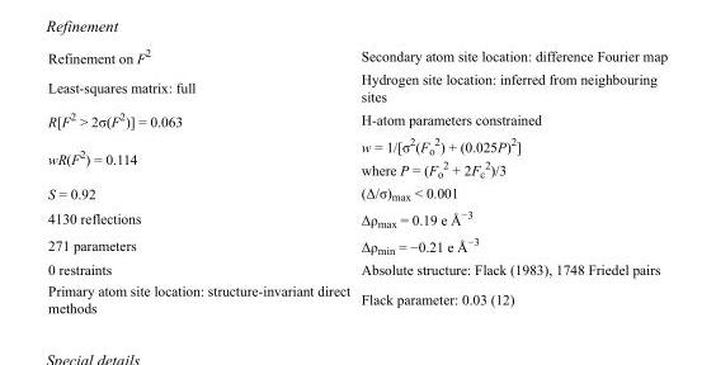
<table><tbody><tr><td>Refinement on F<sup>2</sup></td><td>Secondary atom site location: difference Fourier map</td></tr><tr><td>Least-squares matrix: full</td><td>Hydrogen site location: inferred from neighbouring sites</td></tr><tr><td>R[F<sup>2</sup> &gt; 2σ(F<sup>2</sup>)] = 0.063</td><td>H-atom parameters constrained</td></tr><tr><td>wR(F<sup>2</sup>) = 0.114</td><td>w = 1/[σ<sup>2</sup>(F<sub>o</sub> <sup>2</sup>) + (0.025P)<sup>2</sup>] where P = (F<sub>o</sub> <sup>2</sup> + 2F<sub>c</sub> <sup>2</sup>)/3</td></tr><tr><td>S = 0.92</td><td>(Δ/σ)<sub>max</sub> &lt; 0.001</td></tr><tr><td>4130 reflections</td><td>Δρ<sub>max</sub> = 0.19 e Å<sup>−3</sup></td></tr><tr><td>271 parameters</td><td>Δρ<sub>min</sub> = −0.21 e Å<sup>−3</sup></td></tr><tr><td>0 restraints</td><td>Absolute structure: Flack (1983), 1748 Friedel pairs</td></tr><tr><td>Primary atom site location: structure-invariant direct methods</td><td>Flack parameter: 0.03 (12)</td></tr></tbody></table>